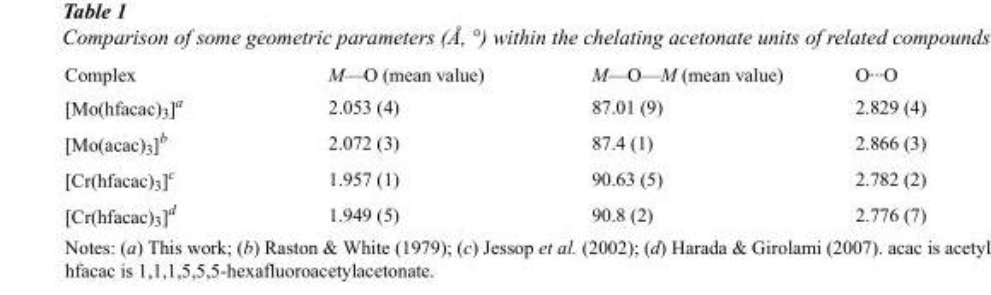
<table><tbody><tr><td>Complex</td><td>M—O (mean value)</td><td>M—O—M (mean value)</td><td>O···O</td></tr><tr><td>[Mo(hfacac)<sub>3</sub>]<sup>a</sup></td><td>2.053 (4)</td><td>87.01 (9)</td><td>2.829 (4)</td></tr><tr><td>[Mo(acac)<sub>3</sub>]<sup>b</sup></td><td>2.072 (3)</td><td>87.4 (1)</td><td>2.866 (3)</td></tr><tr><td>[Cr(hfacac)<sub>3</sub>]<sup>c</sup></td><td>1.957 (1)</td><td>90.63 (5)</td><td>2.782 (2)</td></tr><tr><td>[Cr(hfacac)<sub>3</sub>]<sup>d</sup></td><td>1.949 (5)</td><td>90.8 (2)</td><td>2.776 (7)</td></tr></tbody></table>